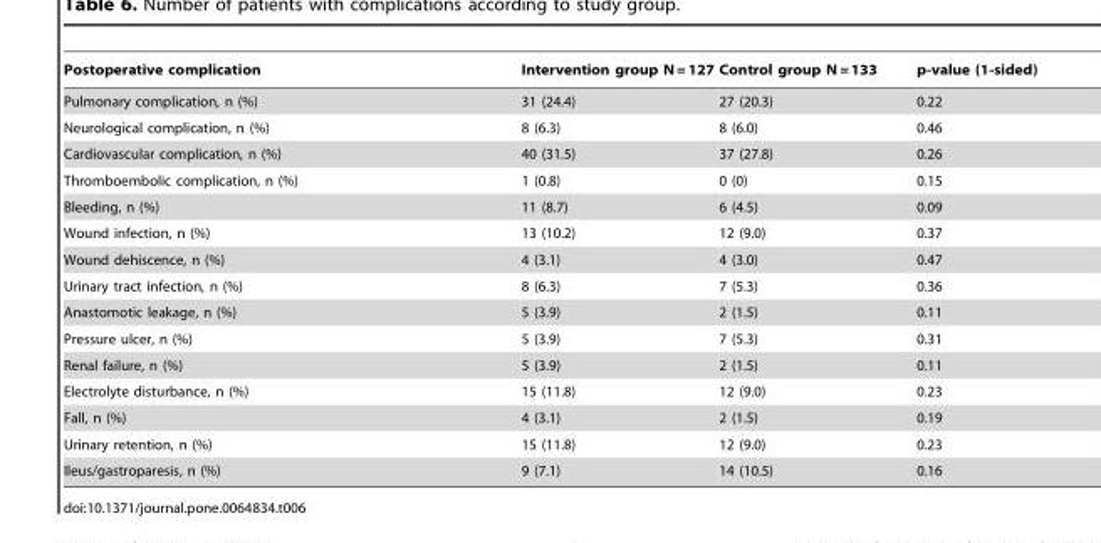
<table><thead><tr><td>Postoperative complication</td><td>Intervention group N = 127</td><td>Control group N = 133</td><td>p-value (1-sided)</td></tr></thead><tbody><tr><td>Pulmonary complication, n (%)</td><td>31 (24.4)</td><td>27 (20.3)</td><td>0.22</td></tr><tr><td>Neurological complication, n (%)</td><td>8 (6.3)</td><td>8 (6.0)</td><td>0.46</td></tr><tr><td>Cardiovascular complication, n (%)</td><td>40 (31.5)</td><td>37 (27.8)</td><td>0.26</td></tr><tr><td>Thromboembolic complication, n (%)</td><td>1 (0.8)</td><td>0 (0)</td><td>0.15</td></tr><tr><td>Bleeding, n (%)</td><td>11 (8.7)</td><td>6 (4.5)</td><td>0.09</td></tr><tr><td>Wound infection, n (%)</td><td>13 (10.2)</td><td>12 (9.0)</td><td>0.37</td></tr><tr><td>Wound dehiscence, n (%)</td><td>4 (3.1)</td><td>4 (3.0)</td><td>0.47</td></tr><tr><td>Urinary tract infection, n (%)</td><td>8 (6.3)</td><td>7 (5.3)</td><td>0.36</td></tr><tr><td>Anastomotic leakage, n (%)</td><td>5 (3.9)</td><td>2 (1.5)</td><td>0.11</td></tr><tr><td>Pressure ulcer, n (%)</td><td>5 (3.9)</td><td>7 (5.3)</td><td>0.31</td></tr><tr><td>Renal failure, n (%)</td><td>5 (3.9)</td><td>2 (1.5)</td><td>0.11</td></tr><tr><td>Electrolyte disturbance, n (%)</td><td>15 (11.8)</td><td>12 (9.0)</td><td>0.23</td></tr><tr><td>Fall, n (%)</td><td>4 (3.1)</td><td>2 (1.5)</td><td>0.19</td></tr><tr><td>Urinary retention, n (%)</td><td>15 (11.8)</td><td>12 (9.0)</td><td>0.23</td></tr><tr><td>Ileus/gastroparesis, n (%)</td><td>9 (7.1)</td><td>14 (10.5)</td><td>0.16</td></tr></tbody></table>